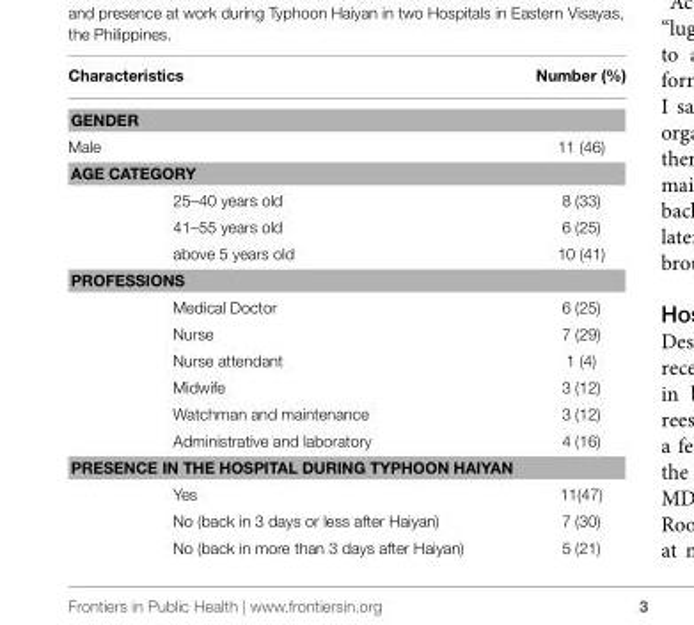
<table><thead><tr><td colspan="2">Characteristics</td><td>Number (%)</td></tr><tr><td colspan="3">GENDER</td></tr><tr><td>Male</td><td></td><td>11 (46)</td></tr></thead><tbody><tr><td colspan="3">AGE CATEGORY</td></tr><tr><td></td><td>25–40 years old</td><td>8 (33)</td></tr><tr><td></td><td>41–55 years old</td><td>6 (25)</td></tr><tr><td></td><td>above 5 years old</td><td>10 (41)</td></tr><tr><td colspan="3">PROFESSIONS</td></tr><tr><td></td><td>Medical Doctor</td><td>6 (25)</td></tr><tr><td></td><td>Nurse</td><td>7 (29)</td></tr><tr><td></td><td>Nurse attendant</td><td>1 (4)</td></tr><tr><td></td><td>Midwife</td><td>3 (12)</td></tr><tr><td></td><td>Watchman and maintenance</td><td>3 (12)</td></tr><tr><td></td><td>Administrative and laboratory</td><td>4 (16)</td></tr><tr><td colspan="3">PRESENCE IN THE HOSPITAL DURING TYPHOON HAIYAN</td></tr><tr><td></td><td>Yes</td><td>11(47)</td></tr><tr><td></td><td>No (back in 3 days or less after Haiyan)</td><td>7 (30)</td></tr><tr><td></td><td>No (back in more than 3 days after Haiyan)</td><td>5 (21)</td></tr></tbody></table>